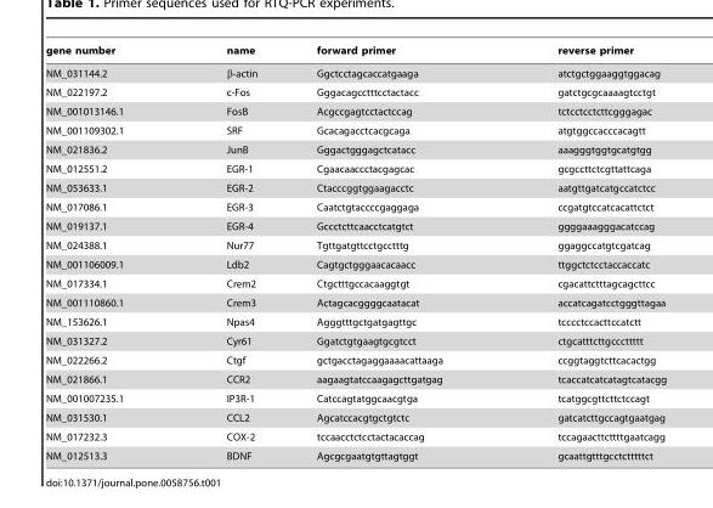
<table><thead><tr><td>gene number</td><td>name</td><td>forward primer</td><td>reverse primer</td></tr></thead><tbody><tr><td>NM_031144.2</td><td>β-actin</td><td>Ggctcctagcaccatgaaga</td><td>atctgctggaaggtggacag</td></tr><tr><td>NM_022197.2</td><td>c-Fos</td><td>Gggacagcctttcctactacc</td><td>gatctgcgcaaaagtcctgt</td></tr><tr><td>NM_001013146.1</td><td>FosB</td><td>Acgccgagtcctactccag</td><td>tctcctcctcttcgggagac</td></tr><tr><td>NM_001109302.1</td><td>SRF</td><td>Gcacagacctcacgcaga</td><td>atgtggccacccacagtt</td></tr><tr><td>NM_021836.2</td><td>JunB</td><td>Gggactgggagctcatacc</td><td>aaagggtggtgcatgtgg</td></tr><tr><td>NM_012551.2</td><td>EGR-1</td><td>Cgaacaaccctacgagcac</td><td>gcgccttctcgttattcaga</td></tr><tr><td>NM_053633.1</td><td>EGR-2</td><td>Ctacccggtggaagacctc</td><td>aatgttgatcatgccatctcc</td></tr><tr><td>NM_017086.1</td><td>EGR-3</td><td>Caatctgtaccccgaggaga</td><td>ccgatgtccatcacattctct</td></tr><tr><td>NM_019137.1</td><td>EGR-4</td><td>Gccctcttcaacctcatgtct</td><td>ggggaaagggacatccag</td></tr><tr><td>NM_024388.1</td><td>Nur77</td><td>Tgttgatgttcctgcctttg</td><td>ggaggccatgtcgatcag</td></tr><tr><td>NM_001106009.1</td><td>Ldb2</td><td>Cagtgctgggaacacaacc</td><td>ttggctctcctaccaccatc</td></tr><tr><td>NM_017334.1</td><td>Crem2</td><td>Ctgctttgccacaaggtgt</td><td>cgacattctttagcagcttcc</td></tr><tr><td>NM_001110860.1</td><td>Crem3</td><td>Actagcacggggcaatacat</td><td>accatcagatcctgggttagaa</td></tr><tr><td>NM_153626.1</td><td>Npas4</td><td>Agggtttgctgatgagttgc</td><td>tcccctccacttccatctt</td></tr><tr><td>NM_031327.2</td><td>Cyr61</td><td>Ggatctgtgaagtgcgtcct</td><td>ctgcatttcttgcccttttt</td></tr><tr><td>NM_022266.2</td><td>Ctgf</td><td>gctgacctagaggaaaacattaaga</td><td>ccggtaggtcttcacactgg</td></tr><tr><td>NM_021866.1</td><td>CCR2</td><td>aagaagtatccaagagcttgatgag</td><td>tcaccatcatcatagtcatacgg</td></tr><tr><td>NM_001007235.1</td><td>IP3R-1</td><td>Catccagtatggcaacgtga</td><td>tcatggcgttcttctccagt</td></tr><tr><td>NM_031530.1</td><td>CCL2</td><td>Agcatccacgtgctgtctc</td><td>gatcatcttgccagtgaatgag</td></tr><tr><td>NM_017232.3</td><td>COX-2</td><td>tccaacctctcctactacaccag</td><td>tccagaacttcttttgaatcagg</td></tr><tr><td>NM_012513.3</td><td>BDNF</td><td>Agcgcgaatgtgttagtggt</td><td>gcaattgtttgcctctttttct</td></tr></tbody></table>